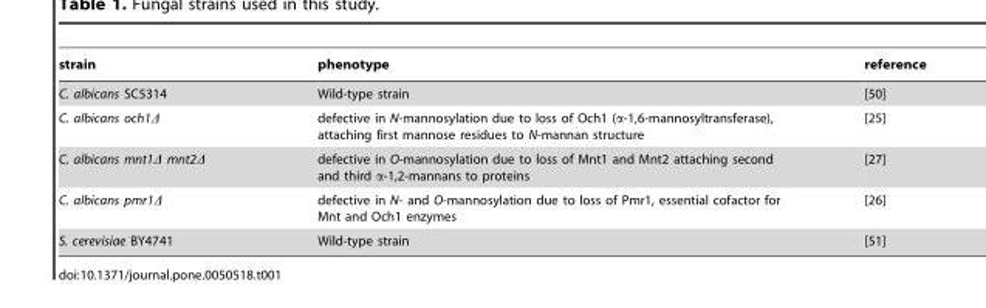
<table><thead><tr><td>strain</td><td>phenotype</td><td>reference</td></tr></thead><tbody><tr><td>C. albicans SC5314</td><td>Wild-type strain</td><td>[50]</td></tr><tr><td>C. albicans och1Δ</td><td>defective in N-mannosylation due to loss of Och1 (α-1,6-mannosyltransferase), attaching first mannose residues to N-mannan structure</td><td>[25]</td></tr><tr><td>C. albicans mnt1Δ mnt2Δ</td><td>defective in O-mannosylation due to loss of Mnt1 and Mnt2 attaching second and third α-1,2-mannans to proteins</td><td>[27]</td></tr><tr><td>C. albicans pmr1Δ</td><td>defective in N- and O-mannosylation due to loss of Pmr1, essential cofactor for Mnt and Och1 enzymes</td><td>[26]</td></tr><tr><td>S. cerevisiae BY4741</td><td>Wild-type strain</td><td>[51]</td></tr></tbody></table>